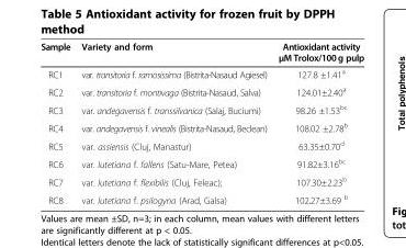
<table><thead><tr><td>Sample</td><td>Variety and form</td><td>Antioxidant activity μM Trolox/100 g pulp</td></tr></thead><tbody><tr><td>RC1</td><td>var. transitoria f. ramosissima (Bistrita-Nasaud Agiesel)</td><td>127.8 ±1.41<sup>a</sup></td></tr><tr><td>RC2</td><td>var. transitoria f. montivaga (Bistrita-Nasaud, Salva)</td><td>124.01±2.40<sup>a</sup></td></tr><tr><td>RC3</td><td>var. andegavensis f. transsilvanica (Salaj, Buciumi)</td><td>98.26 ±1.53<sup>bc</sup></td></tr><tr><td>RC4</td><td>var. andegavensis f. vinealis (Bistrita-Nasaud, Beclean)</td><td>108.02 ±2.78<sup>b</sup></td></tr><tr><td>RC5</td><td>var. assiensis (Cluj, Manastur)</td><td>63.35±0.70<sup>d</sup></td></tr><tr><td>RC6</td><td>var. lutetiana f. fallens (Satu-Mare, Petea)</td><td>91.82±3.16<sup>bc</sup></td></tr><tr><td>RC7</td><td>var. lutetiana f. flexibilis (Cluj, Feleac);</td><td>107.30±2.23<sup>b</sup></td></tr><tr><td>RC8</td><td>var. lutetiana f. psilogyna (Arad, Galsa)</td><td>102.27±3.69 <sup>b</sup></td></tr></tbody></table>